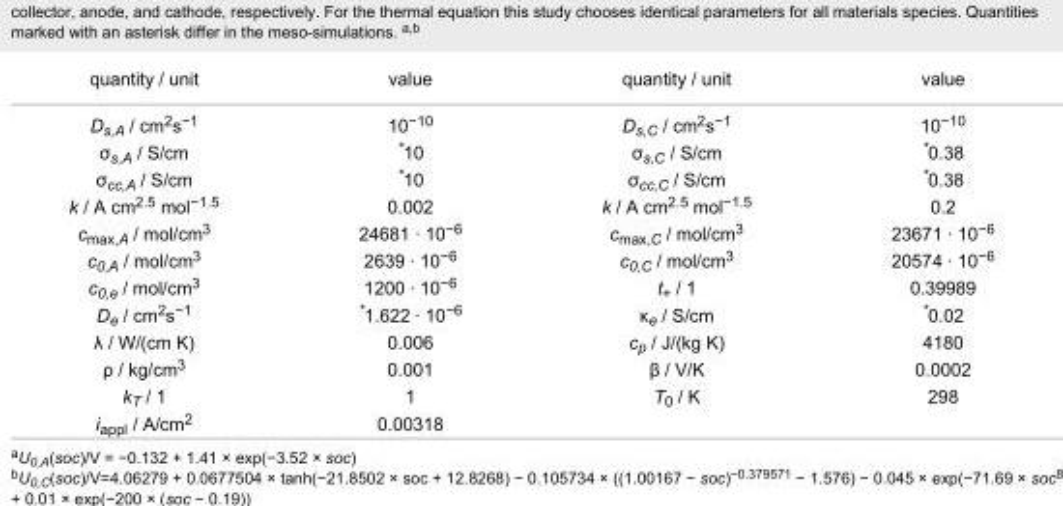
<table><tbody><tr><td>quantity / unit</td><td>value</td><td>quantity / unit</td><td>value</td></tr><tr><td>D<sub>s,A</sub> / cm<sup>2</sup>s<sup>−1</sup></td><td>10<sup>−10</sup></td><td>D<sub>s,C</sub> / cm<sup>2</sup>s<sup>−1</sup></td><td>10<sup>−10</sup></td></tr><tr><td>σ<sub>s,A</sub> / S/cm</td><td>*10</td><td>σ<sub>s,C</sub> / S/cm</td><td>*0.38</td></tr><tr><td>σ<sub>cc,A</sub> / S/cm</td><td>*10</td><td>σ<sub>cc,C</sub> / S/cm</td><td>*0.38</td></tr><tr><td>k / A cm<sup>2.5</sup> mol<sup>−1.5</sup></td><td>0.002</td><td>k / A cm<sup>2.5</sup> mol<sup>−1.5</sup></td><td>0.2</td></tr><tr><td>c<sub>max,A</sub> / mol/cm<sup>3</sup></td><td>24681 · 10<sup>−6</sup></td><td>c<sub>max,C</sub> / mol/cm<sup>3</sup></td><td>23671 · 10<sup>−6</sup></td></tr><tr><td>c<sub>0,A</sub> / mol/cm<sup>3</sup></td><td>2639 · 10<sup>−6</sup></td><td>c<sub>0,C</sub> / mol/cm<sup>3</sup></td><td>20574 · 10<sup>−6</sup></td></tr><tr><td>c<sub>0,e</sub> / mol/cm<sup>3</sup></td><td>1200 · 10<sup>−6</sup></td><td>t<sub>+</sub> / 1</td><td>0.39989</td></tr><tr><td>D<sub>e</sub> / cm<sup>2</sup>s<sup>−1</sup></td><td>*1.622 · 10<sup>−6</sup></td><td>κ<sub>e</sub> / S/cm</td><td>*0.02</td></tr><tr><td>λ / W/(cm K)</td><td>0.006</td><td>c<sub>p</sub> / J/(kg K)</td><td>4180</td></tr><tr><td>ρ / kg/cm<sup>3</sup></td><td>0.001</td><td>β / V/K</td><td>0.0002</td></tr><tr><td>k<sub>T</sub> / 1</td><td>1</td><td>T<sub>0</sub> / K</td><td>298</td></tr><tr><td>i<sub>appl</sub> / A/cm<sup>2</sup></td><td>0.00318</td><td></td><td></td></tr></tbody></table>